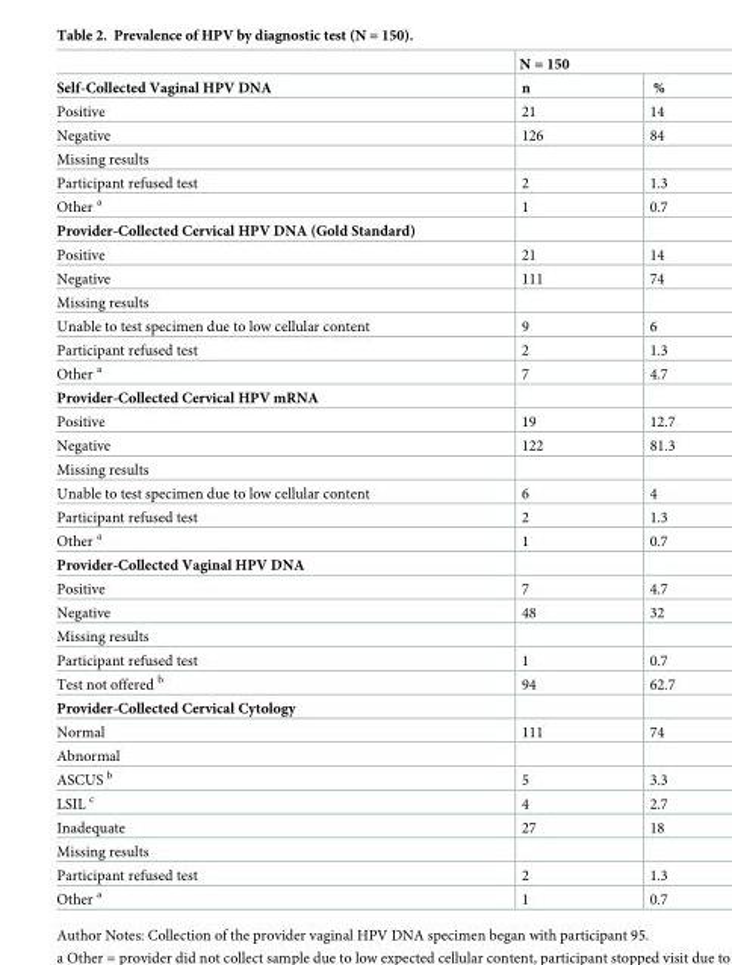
<table><thead><tr><td rowspan="2">Self-Collected Vaginal HPV DNA</td><td colspan="2">N = 150</td></tr><tr><td>n</td><td>%</td></tr></thead><tbody><tr><td>Positive</td><td>21</td><td>14</td></tr><tr><td>Negative</td><td>126</td><td>84</td></tr><tr><td colspan="3">Missing results</td></tr><tr><td>Participant refused test</td><td>2</td><td>1.3</td></tr><tr><td>Other <sup>a</sup></td><td>1</td><td>0.7</td></tr><tr><td colspan="3">Provider-Collected Cervical HPV DNA (Gold Standard)</td></tr><tr><td>Positive</td><td>21</td><td>14</td></tr><tr><td>Negative</td><td>111</td><td>74</td></tr><tr><td colspan="3">Missing results</td></tr><tr><td>Unable to test specimen due to low cellular content</td><td>9</td><td>6</td></tr><tr><td>Participant refused test</td><td>2</td><td>1.3</td></tr><tr><td>Other <sup>a</sup></td><td>7</td><td>4.7</td></tr><tr><td colspan="3">Provider-Collected Cervical HPV mRNA</td></tr><tr><td>Positive</td><td>19</td><td>12.7</td></tr><tr><td>Negative</td><td>122</td><td>81.3</td></tr><tr><td colspan="3">Missing results</td></tr><tr><td>Unable to test specimen due to low cellular content</td><td>6</td><td>4</td></tr><tr><td>Participant refused test</td><td>2</td><td>1.3</td></tr><tr><td>Other <sup>a</sup></td><td>1</td><td>0.7</td></tr><tr><td colspan="3">Provider-Collected Vaginal HPV DNA</td></tr><tr><td>Positive</td><td>7</td><td>4.7</td></tr><tr><td>Negative</td><td>48</td><td>32</td></tr><tr><td colspan="3">Missing results</td></tr><tr><td>Participant refused test</td><td>1</td><td>0.7</td></tr><tr><td>Test not offered <sup>b</sup></td><td>94</td><td>62.7</td></tr><tr><td colspan="3">Provider-Collected Cervical Cytology</td></tr><tr><td>Normal</td><td>111</td><td>74</td></tr><tr><td colspan="3">Abnormal</td></tr><tr><td>ASCUS <sup>b</sup></td><td>5</td><td>3.3</td></tr><tr><td>LSIL <sup>c</sup></td><td>4</td><td>2.7</td></tr><tr><td>Inadequate</td><td>27</td><td>18</td></tr><tr><td colspan="3">Missing results</td></tr><tr><td>Participant refused test</td><td>2</td><td>1.3</td></tr><tr><td>Other <sup>a</sup></td><td>1</td><td>0.7</td></tr></tbody></table>